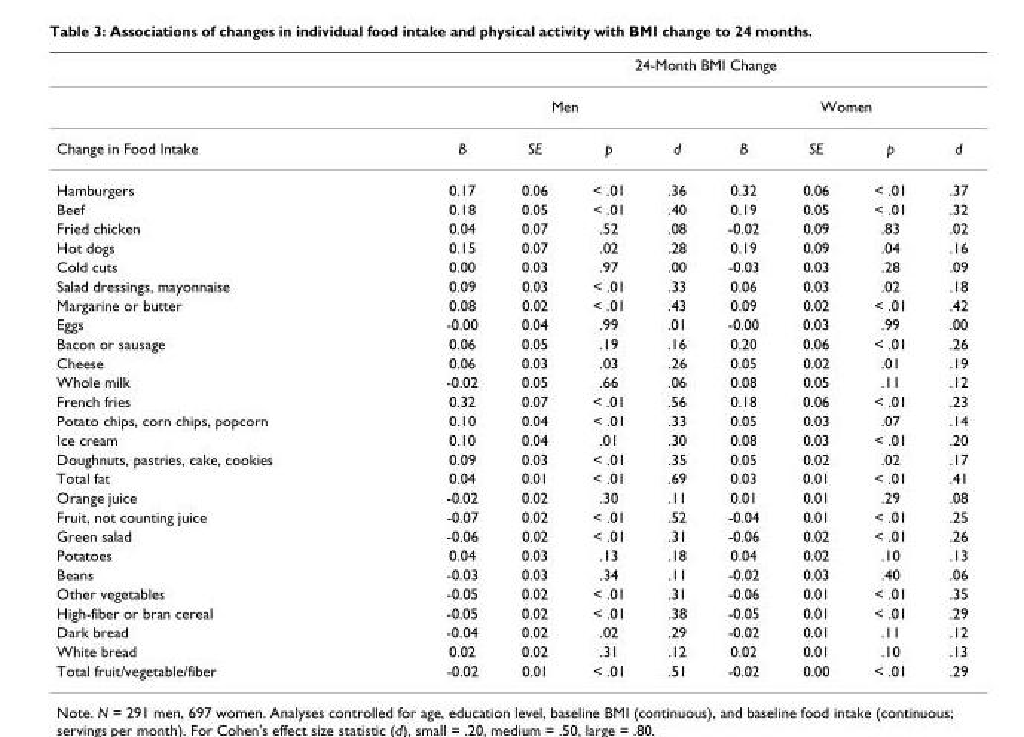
<table><thead><tr><td rowspan="3">Change in Food Intake</td><td colspan="8">24-Month BMI Change</td></tr><tr><td colspan="4">Men</td><td colspan="4">Women</td></tr><tr><td>B</td><td>SE</td><td>p</td><td>d</td><td>B</td><td>SE</td><td>p</td><td>d</td></tr></thead><tbody><tr><td>Hamburgers</td><td>0.17</td><td>0.06</td><td>&lt; .01</td><td>.36</td><td>0.32</td><td>0.06</td><td>&lt; .01</td><td>.37</td></tr><tr><td>Beef</td><td>0.18</td><td>0.05</td><td>&lt; .01</td><td>.40</td><td>0.19</td><td>0.05</td><td>&lt; .01</td><td>.32</td></tr><tr><td>Fried chicken</td><td>0.04</td><td>0.07</td><td>.52</td><td>.08</td><td>-0.02</td><td>0.09</td><td>.83</td><td>.02</td></tr><tr><td>Hot dogs</td><td>0.15</td><td>0.07</td><td>.02</td><td>.28</td><td>0.19</td><td>0.09</td><td>.04</td><td>.16</td></tr><tr><td>Cold cuts</td><td>0.00</td><td>0.03</td><td>.97</td><td>.00</td><td>-0.03</td><td>0.03</td><td>.28</td><td>.09</td></tr><tr><td>Salad dressings, mayonnaise</td><td>0.09</td><td>0.03</td><td>&lt; .01</td><td>.33</td><td>0.06</td><td>0.03</td><td>.02</td><td>.18</td></tr><tr><td>Margarine or butter</td><td>0.08</td><td>0.02</td><td>&lt; .01</td><td>.43</td><td>0.09</td><td>0.02</td><td>&lt; .01</td><td>.42</td></tr><tr><td>Eggs</td><td>-0.00</td><td>0.04</td><td>.99</td><td>.01</td><td>-0.00</td><td>0.03</td><td>.99</td><td>.00</td></tr><tr><td>Bacon or sausage</td><td>0.06</td><td>0.05</td><td>.19</td><td>.16</td><td>0.20</td><td>0.06</td><td>&lt; .01</td><td>.26</td></tr><tr><td>Cheese</td><td>0.06</td><td>0.03</td><td>.03</td><td>.26</td><td>0.05</td><td>0.02</td><td>.01</td><td>.19</td></tr><tr><td>Whole milk</td><td>-0.02</td><td>0.05</td><td>.66</td><td>.06</td><td>0.08</td><td>0.05</td><td>.11</td><td>.12</td></tr><tr><td>French fries</td><td>0.32</td><td>0.07</td><td>&lt; .01</td><td>.56</td><td>0.18</td><td>0.06</td><td>&lt; .01</td><td>.23</td></tr><tr><td>Potato chips, corn chips, popcorn</td><td>0.10</td><td>0.04</td><td>&lt; .01</td><td>.33</td><td>0.05</td><td>0.03</td><td>.07</td><td>.14</td></tr><tr><td>Ice cream</td><td>0.10</td><td>0.04</td><td>.01</td><td>.30</td><td>0.08</td><td>0.03</td><td>&lt; .01</td><td>.20</td></tr><tr><td>Doughnuts, pastries, cake, cookies</td><td>0.09</td><td>0.03</td><td>&lt; .01</td><td>.35</td><td>0.05</td><td>0.02</td><td>.02</td><td>.17</td></tr><tr><td>Total fat</td><td>0.04</td><td>0.01</td><td>&lt; .01</td><td>.69</td><td>0.03</td><td>0.01</td><td>&lt; .01</td><td>.41</td></tr><tr><td>Orange juice</td><td>-0.02</td><td>0.02</td><td>.30</td><td>.11</td><td>0.01</td><td>0.01</td><td>.29</td><td>.08</td></tr><tr><td>Fruit, not counting juice</td><td>-0.07</td><td>0.02</td><td>&lt; .01</td><td>.52</td><td>-0.04</td><td>0.01</td><td>&lt; .01</td><td>.25</td></tr><tr><td>Green salad</td><td>-0.06</td><td>0.02</td><td>&lt; .01</td><td>.31</td><td>-0.06</td><td>0.02</td><td>&lt; .01</td><td>.26</td></tr><tr><td>Potatoes</td><td>0.04</td><td>0.03</td><td>.13</td><td>.18</td><td>0.04</td><td>0.02</td><td>.10</td><td>.13</td></tr><tr><td>Beans</td><td>-0.03</td><td>0.03</td><td>.34</td><td>.11</td><td>-0.02</td><td>0.03</td><td>.40</td><td>.06</td></tr><tr><td>Other vegetables</td><td>-0.05</td><td>0.02</td><td>&lt; .01</td><td>.31</td><td>-0.06</td><td>0.01</td><td>&lt; .01</td><td>.35</td></tr><tr><td>High-fiber or bran cereal</td><td>-0.05</td><td>0.02</td><td>&lt; .01</td><td>.38</td><td>-0.05</td><td>0.01</td><td>&lt; .01</td><td>.29</td></tr><tr><td>Dark bread</td><td>-0.04</td><td>0.02</td><td>.02</td><td>.29</td><td>-0.02</td><td>0.01</td><td>.11</td><td>.12</td></tr><tr><td>White bread</td><td>0.02</td><td>0.02</td><td>.31</td><td>.12</td><td>0.02</td><td>0.01</td><td>.10</td><td>.13</td></tr><tr><td>Total fruit/vegetable/fiber</td><td>-0.02</td><td>0.01</td><td>&lt; .01</td><td>.51</td><td>-0.02</td><td>0.00</td><td>&lt; .01</td><td>.29</td></tr></tbody></table>